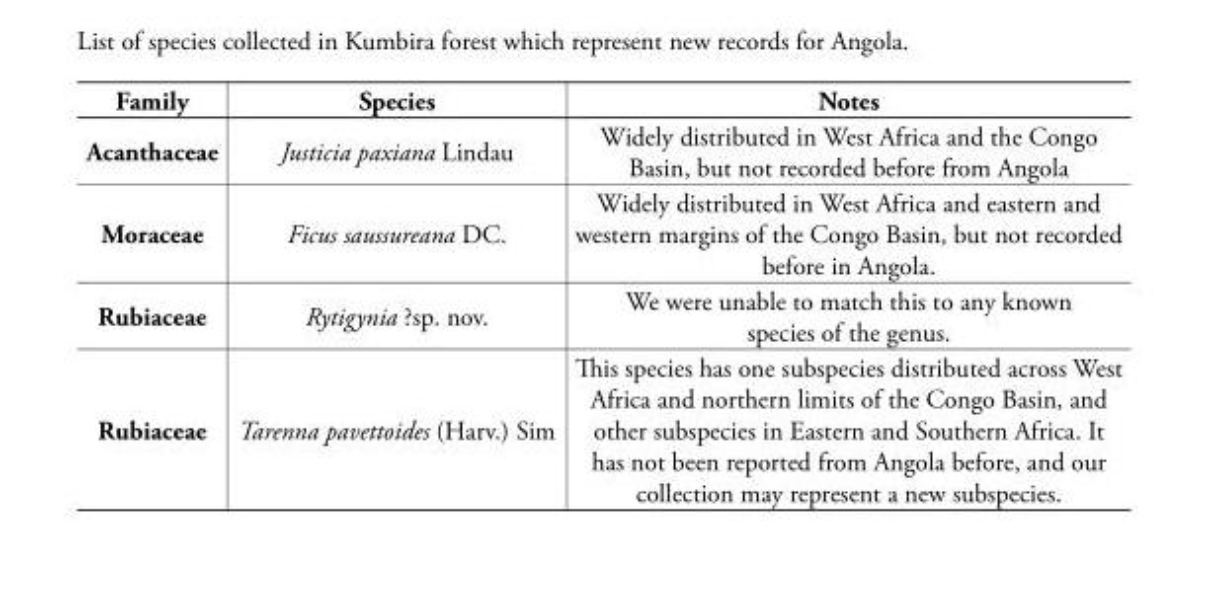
<table><tbody><tr><td>Family</td><td>Species</td><td>Notes</td></tr><tr><td>Acanthaceae</td><td>Justicia paxiana Lindau</td><td>Widely distributed in West Africa and the Congo Basin, but not recorded before from Angola</td></tr><tr><td>Moraceae</td><td>Ficus saussureana DC.</td><td>Widely distributed in West Africa and eastern and western margins of the Congo Basin, but not recorded before in Angola.</td></tr><tr><td>Rubiaceae</td><td>Rytigynia ?sp. nov.</td><td>We were unable to match this to any known species of the genus.</td></tr><tr><td>Rubiaceae</td><td>Tarenna pavettoides (Harv.) Sim</td><td>Th is species has one subspecies distributed across West Africa and northern limits of the Congo Basin, and other subspecies in Eastern and Southern Africa. It has not been reported from Angola before, and our collection may represent a new subspecies.</td></tr></tbody></table>